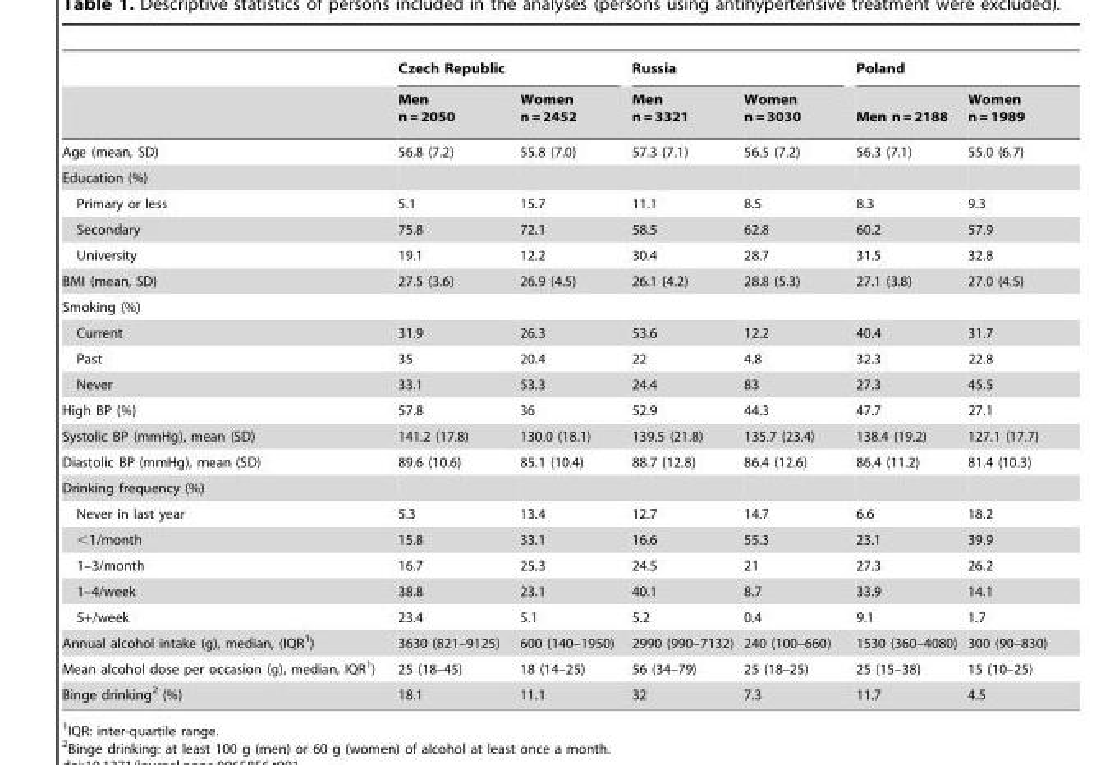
<table><thead><tr><td rowspan="2"></td><td colspan="2">Czech Republic</td><td colspan="2">Russia</td><td colspan="2">Poland</td></tr><tr><td>Men n = 2050</td><td>Women n = 2452</td><td>Men n = 3321</td><td>Women n = 3030</td><td>Men n = 2188</td><td>Women n = 1989</td></tr></thead><tbody><tr><td>Age (mean, SD)</td><td>56.8 (7.2)</td><td>55.8 (7.0)</td><td>57.3 (7.1)</td><td>56.5 (7.2)</td><td>56.3 (7.1)</td><td>55.0 (6.7)</td></tr><tr><td colspan="7">Education (%)</td></tr><tr><td>Primary or less</td><td>5.1</td><td>15.7</td><td>11.1</td><td>8.5</td><td>8.3</td><td>9.3</td></tr><tr><td>Secondary</td><td>75.8</td><td>72.1</td><td>58.5</td><td>62.8</td><td>60.2</td><td>57.9</td></tr><tr><td>University</td><td>19.1</td><td>12.2</td><td>30.4</td><td>28.7</td><td>31.5</td><td>32.8</td></tr><tr><td>BMI (mean, SD)</td><td>27.5 (3.6)</td><td>26.9 (4.5)</td><td>26.1 (4.2)</td><td>28.8 (5.3)</td><td>27.1 (3.8)</td><td>27.0 (4.5)</td></tr><tr><td colspan="7">Smoking (%)</td></tr><tr><td>Current</td><td>31.9</td><td>26.3</td><td>53.6</td><td>12.2</td><td>40.4</td><td>31.7</td></tr><tr><td>Past</td><td>35</td><td>20.4</td><td>22</td><td>4.8</td><td>32.3</td><td>22.8</td></tr><tr><td>Never</td><td>33.1</td><td>53.3</td><td>24.4</td><td>83</td><td>27.3</td><td>45.5</td></tr><tr><td>High BP (%)</td><td>57.8</td><td>36</td><td>52.9</td><td>44.3</td><td>47.7</td><td>27.1</td></tr><tr><td>Systolic BP (mmHg), mean (SD)</td><td>141.2 (17.8)</td><td>130.0 (18.1)</td><td>139.5 (21.8)</td><td>135.7 (23.4)</td><td>138.4 (19.2)</td><td>127.1 (17.7)</td></tr><tr><td>Diastolic BP (mmHg), mean (SD)</td><td>89.6 (10.6)</td><td>85.1 (10.4)</td><td>88.7 (12.8)</td><td>86.4 (12.6)</td><td>86.4 (11.2)</td><td>81.4 (10.3)</td></tr><tr><td colspan="7">Drinking frequency (%)</td></tr><tr><td>Never in last year</td><td>5.3</td><td>13.4</td><td>12.7</td><td>14.7</td><td>6.6</td><td>18.2</td></tr><tr><td>&lt;1/month</td><td>15.8</td><td>33.1</td><td>16.6</td><td>55.3</td><td>23.1</td><td>39.9</td></tr><tr><td>1–3/month</td><td>16.7</td><td>25.3</td><td>24.5</td><td>21</td><td>27.3</td><td>26.2</td></tr><tr><td>1–4/week</td><td>38.8</td><td>23.1</td><td>40.1</td><td>8.7</td><td>33.9</td><td>14.1</td></tr><tr><td>5+/week</td><td>23.4</td><td>5.1</td><td>5.2</td><td>0.4</td><td>9.1</td><td>1.7</td></tr><tr><td>Annual alcohol intake (g), median, (IQR<sup>1</sup>)</td><td>3630 (821–9125)</td><td>600 (140–1950)</td><td>2990 (990–7132)</td><td>240 (100–660)</td><td>1530 (360–4080)</td><td>300 (90–830)</td></tr><tr><td>Mean alcohol dose per occasion (g), median, IQR<sup>1</sup>)</td><td>25 (18–45)</td><td>18 (14–25)</td><td>56 (34–79)</td><td>25 (18–25)</td><td>25 (15–38)</td><td>15 (10–25)</td></tr><tr><td>Binge drinking<sup>2</sup> (%)</td><td>18.1</td><td>11.1</td><td>32</td><td>7.3</td><td>11.7</td><td>4.5</td></tr></tbody></table>